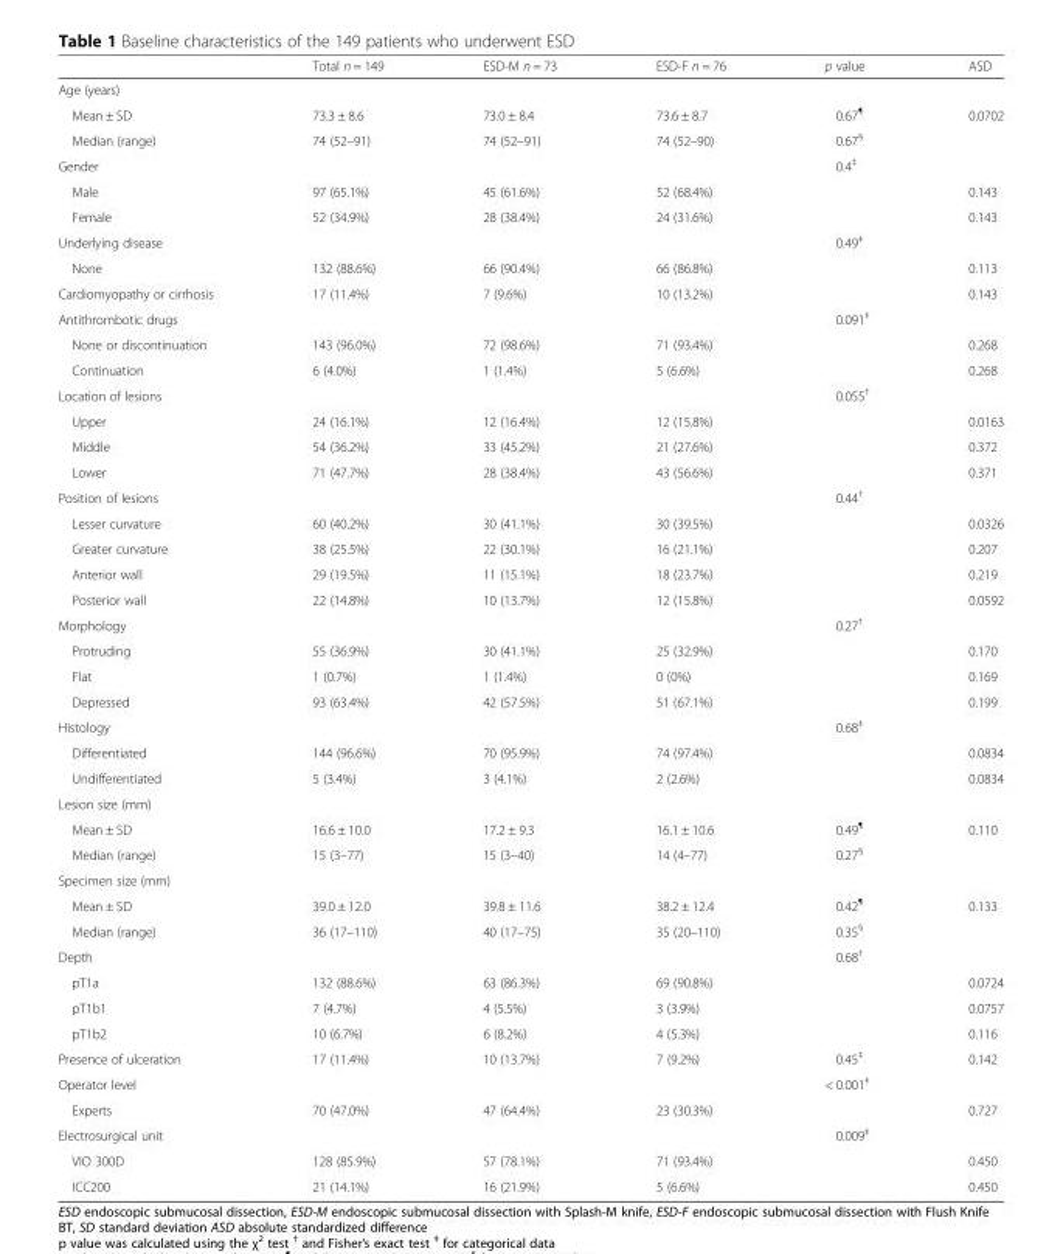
<table><thead><tr><td></td><td>Total n = 149</td><td>ESD-M n = 73</td><td>ESD-F n = 76</td><td>p value</td><td>ASD</td></tr></thead><tbody><tr><td colspan="6">Age (years)</td></tr><tr><td>Mean ± SD</td><td>73.3 ± 8.6</td><td>73.0 ± 8.4</td><td>73.6 ± 8.7</td><td>0.67<sup>¶</sup></td><td>0.0702</td></tr><tr><td>Median (range)</td><td>74 (52–91)</td><td>74 (52–91)</td><td>74 (52–90)</td><td>0.67<sup>§</sup></td><td></td></tr><tr><td>Gender</td><td></td><td></td><td></td><td>0.4<sup>‡</sup></td><td></td></tr><tr><td>Male</td><td>97 (65.1%)</td><td>45 (61.6%)</td><td>52 (68.4%)</td><td></td><td>0.143</td></tr><tr><td>Female</td><td>52 (34.9%)</td><td>28 (38.4%)</td><td>24 (31.6%)</td><td></td><td>0.143</td></tr><tr><td>Underlying disease</td><td></td><td></td><td></td><td>0.49<sup>‡</sup></td><td></td></tr><tr><td>None</td><td>132 (88.6%)</td><td>66 (90.4%)</td><td>66 (86.8%)</td><td></td><td>0.113</td></tr><tr><td>Cardiomyopathy or cirrhosis</td><td>17 (11.4%)</td><td>7 (9.6%)</td><td>10 (13.2%)</td><td></td><td>0.143</td></tr><tr><td>Antithrombotic drugs</td><td></td><td></td><td></td><td>0.091<sup>‡</sup></td><td></td></tr><tr><td>None or discontinuation</td><td>143 (96.0%)</td><td>72 (98.6%)</td><td>71 (93.4%)</td><td></td><td>0.268</td></tr><tr><td>Continuation</td><td>6 (4.0%)</td><td>1 (1.4%)</td><td>5 (6.6%)</td><td></td><td>0.268</td></tr><tr><td>Location of lesions</td><td></td><td></td><td></td><td>0.055<sup>†</sup></td><td></td></tr><tr><td>Upper</td><td>24 (16.1%)</td><td>12 (16.4%)</td><td>12 (15.8%)</td><td></td><td>0.0163</td></tr><tr><td>Middle</td><td>54 (36.2%)</td><td>33 (45.2%)</td><td>21 (27.6%)</td><td></td><td>0.372</td></tr><tr><td>Lower</td><td>71 (47.7%)</td><td>28 (38.4%)</td><td>43 (56.6%)</td><td></td><td>0.371</td></tr><tr><td>Position of lesions</td><td></td><td></td><td></td><td>0.44<sup>†</sup></td><td></td></tr><tr><td>Lesser curvature</td><td>60 (40.2%)</td><td>30 (41.1%)</td><td>30 (39.5%)</td><td></td><td>0.0326</td></tr><tr><td>Greater curvature</td><td>38 (25.5%)</td><td>22 (30.1%)</td><td>16 (21.1%)</td><td></td><td>0.207</td></tr><tr><td>Anterior wall</td><td>29 (19.5%)</td><td>11 (15.1%)</td><td>18 (23.7%)</td><td></td><td>0.219</td></tr><tr><td>Posterior wall</td><td>22 (14.8%)</td><td>10 (13.7%)</td><td>12 (15.8%)</td><td></td><td>0.0592</td></tr><tr><td>Morphology</td><td></td><td></td><td></td><td>0.27<sup>†</sup></td><td></td></tr><tr><td>Protruding</td><td>55 (36.9%)</td><td>30 (41.1%)</td><td>25 (32.9%)</td><td></td><td>0.170</td></tr><tr><td>Flat</td><td>1 (0.7%)</td><td>1 (1.4%)</td><td>0 (0%)</td><td></td><td>0.169</td></tr><tr><td>Depressed</td><td>93 (63.4%)</td><td>42 (57.5%)</td><td>51 (67.1%)</td><td></td><td>0.199</td></tr><tr><td>Histology</td><td></td><td></td><td></td><td>0.68<sup>‡</sup></td><td></td></tr><tr><td>Differentiated</td><td>144 (96.6%)</td><td>70 (95.9%)</td><td>74 (97.4%)</td><td></td><td>0.0834</td></tr><tr><td>Undifferentiated</td><td>5 (3.4%)</td><td>3 (4.1%)</td><td>2 (2.6%)</td><td></td><td>0.0834</td></tr><tr><td colspan="6">Lesion size (mm)</td></tr><tr><td>Mean ± SD</td><td>16.6 ± 10.0</td><td>17.2 ± 9.3</td><td>16.1 ± 10.6</td><td>0.49<sup>¶</sup></td><td>0.110</td></tr><tr><td>Median (range)</td><td>15 (3–77)</td><td>15 (3–40)</td><td>14 (4–77)</td><td>0.27<sup>§</sup></td><td></td></tr><tr><td colspan="6">Specimen size (mm)</td></tr><tr><td>Mean ± SD</td><td>39.0 ± 12.0</td><td>39.8 ± 11.6</td><td>38.2 ± 12.4</td><td>0.42<sup>¶</sup></td><td>0.133</td></tr><tr><td>Median (range)</td><td>36 (17–110)</td><td>40 (17–75)</td><td>35 (20–110)</td><td>0.35<sup>§</sup></td><td></td></tr><tr><td>Depth</td><td></td><td></td><td></td><td>0.68<sup>†</sup></td><td></td></tr><tr><td>pT1a</td><td>132 (88.6%)</td><td>63 (86.3%)</td><td>69 (90.8%)</td><td></td><td>0.0724</td></tr><tr><td>pT1b1</td><td>7 (4.7%)</td><td>4 (5.5%)</td><td>3 (3.9%)</td><td></td><td>0.0757</td></tr><tr><td>pT1b2</td><td>10 (6.7%)</td><td>6 (8.2%)</td><td>4 (5.3%)</td><td></td><td>0.116</td></tr><tr><td>Presence of ulceration</td><td>17 (11.4%)</td><td>10 (13.7%)</td><td>7 (9.2%)</td><td>0.45<sup>‡</sup></td><td>0.142</td></tr><tr><td>Operator level</td><td></td><td></td><td></td><td>&lt; 0.001<sup>‡</sup></td><td></td></tr><tr><td>Experts</td><td>70 (47.0%)</td><td>47 (64.4%)</td><td>23 (30.3%)</td><td></td><td>0.727</td></tr><tr><td>Electrosurgical unit</td><td></td><td></td><td></td><td>0.009<sup>‡</sup></td><td></td></tr><tr><td>VIO 300D</td><td>128 (85.9%)</td><td>57 (78.1%)</td><td>71 (93.4%)</td><td></td><td>0.450</td></tr><tr><td>ICC200</td><td>21 (14.1%)</td><td>16 (21.9%)</td><td>5 (6.6%)</td><td></td><td>0.450</td></tr></tbody></table>